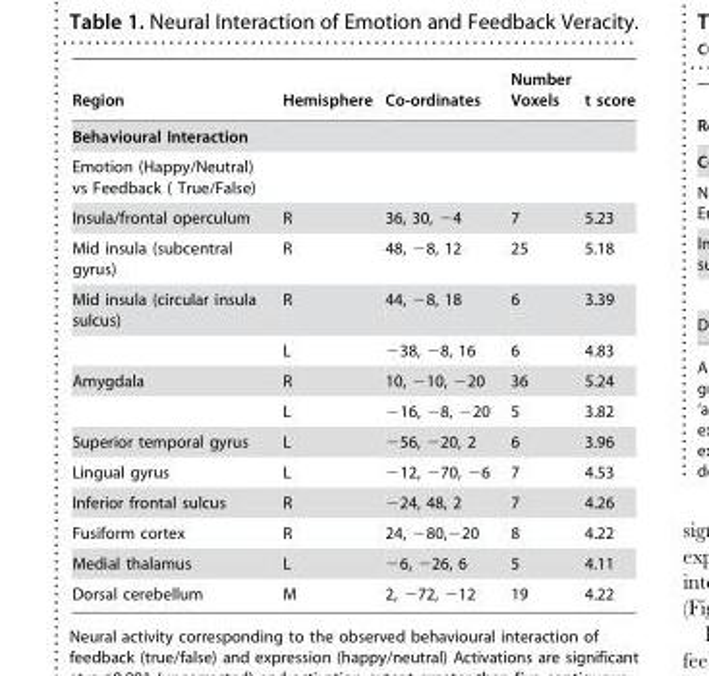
<table><thead><tr><td>Region</td><td>Hemisphere</td><td>Co-ordinates</td><td>Number Voxels</td><td>t score</td></tr></thead><tbody><tr><td colspan="5">Behavioural Interaction</td></tr><tr><td colspan="5">Emotion (Happy/Neutral) vs Feedback ( True/False)</td></tr><tr><td>Insula/frontal operculum</td><td>R</td><td>36, 30, −4</td><td>7</td><td>5.23</td></tr><tr><td>Mid insula (subcentral gyrus)</td><td>R</td><td>48, −8, 12</td><td>25</td><td>5.18</td></tr><tr><td rowspan="2">Mid insula (circular insula sulcus)</td><td>R</td><td>44, −8, 18</td><td>6</td><td>3.39</td></tr><tr><td>L</td><td>−38, −8, 16</td><td>6</td><td>4.83</td></tr><tr><td rowspan="2">Amygdala</td><td>R</td><td>10, −10, −20</td><td>36</td><td>5.24</td></tr><tr><td>L</td><td>−16, −8, −20</td><td>5</td><td>3.82</td></tr><tr><td>Superior temporal gyrus</td><td>L</td><td>−56, −20, 2</td><td>6</td><td>3.96</td></tr><tr><td>Lingual gyrus</td><td>L</td><td>−12, −70, −6</td><td>7</td><td>4.53</td></tr><tr><td>Inferior frontal sulcus</td><td>R</td><td>−24, 48, 2</td><td>7</td><td>4.26</td></tr><tr><td>Fusiform cortex</td><td>R</td><td>24, −80,−20</td><td>8</td><td>4.22</td></tr><tr><td>Medial thalamus</td><td>L</td><td>−6, −26, 6</td><td>5</td><td>4.11</td></tr><tr><td>Dorsal cerebellum</td><td>M</td><td>2, −72, −12</td><td>19</td><td>4.22</td></tr></tbody></table>